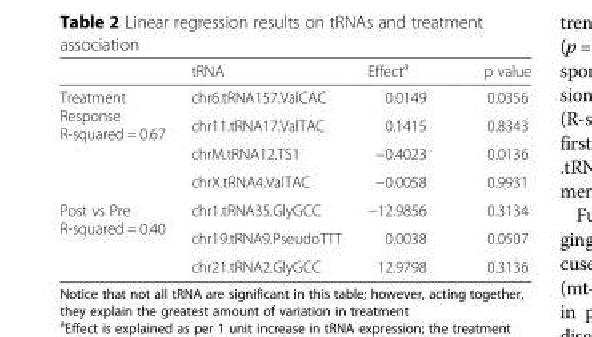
<table><thead><tr><td></td><td>tRNA</td><td>Effect<sup>a</sup></td><td>p value</td></tr></thead><tbody><tr><td rowspan="4">Treatment Response R-squared = 0.67</td><td>chr6.tRNA157.ValCAC</td><td>0.0149</td><td>0.0356</td></tr><tr><td>chr11.tRNA17.ValTAC</td><td>0.1415</td><td>0.8343</td></tr><tr><td>chrM.tRNA12.TS1</td><td>−0.4023</td><td>0.0136</td></tr><tr><td>chrX.tRNA4.ValTAC</td><td>−0.0058</td><td>0.9931</td></tr><tr><td rowspan="3">Post vs Pre R-squared = 0.40</td><td>chr1.tRNA35.GlyGCC</td><td>−12.9856</td><td>0.3134</td></tr><tr><td>chr19.tRNA9.PseudoTTT</td><td>0.0038</td><td>0.0507</td></tr><tr><td>chr21.tRNA2.GlyGCC</td><td>12.9798</td><td>0.3136</td></tr></tbody></table>